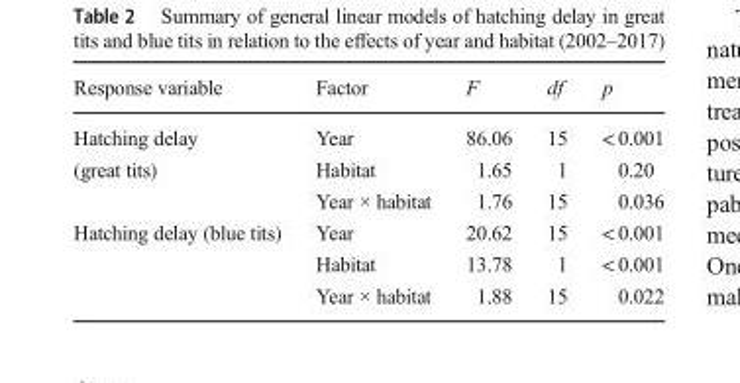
<table><thead><tr><td>Response variable</td><td>Factor</td><td>F</td><td>df</td><td>p</td></tr></thead><tbody><tr><td>Hatching delay</td><td>Year</td><td>86.06</td><td>15</td><td>&lt; 0.001</td></tr><tr><td rowspan="2">(great tits)</td><td>Habitat</td><td>1.65</td><td>1</td><td>0.20</td></tr><tr><td>Year × habitat</td><td>1.76</td><td>15</td><td>0.036</td></tr><tr><td rowspan="3">Hatching delay (blue tits)</td><td>Year</td><td>20.62</td><td>15</td><td>&lt; 0.001</td></tr><tr><td>Habitat</td><td>13.78</td><td>1</td><td>&lt; 0.001</td></tr><tr><td>Year × habitat</td><td>1.88</td><td>15</td><td>0.022</td></tr></tbody></table>